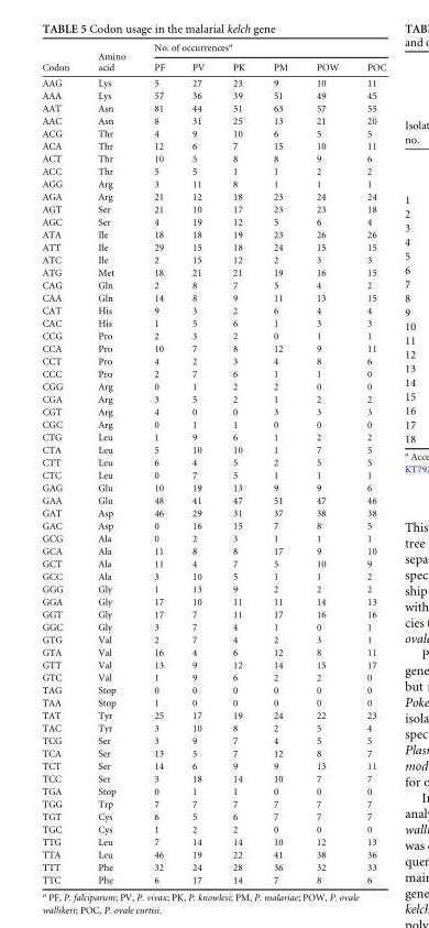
<table><thead><tr><td rowspan="2">Codon</td><td rowspan="2">Amino acid</td><td colspan="6">No. of occurrences<sup>a</sup></td></tr><tr><td>PF</td><td>PV</td><td>PK</td><td>PM</td><td>POW</td><td>POC</td></tr></thead><tbody><tr><td>AAG</td><td>Lys</td><td>5</td><td>27</td><td>23</td><td>9</td><td>10</td><td>11</td></tr><tr><td>AAA</td><td>Lys</td><td>57</td><td>36</td><td>39</td><td>51</td><td>49</td><td>45</td></tr><tr><td>AAT</td><td>Asn</td><td>81</td><td>44</td><td>51</td><td>63</td><td>57</td><td>55</td></tr><tr><td>AAC</td><td>Asn</td><td>8</td><td>31</td><td>25</td><td>13</td><td>21</td><td>20</td></tr><tr><td>ACG</td><td>Thr</td><td>4</td><td>9</td><td>10</td><td>6</td><td>5</td><td>5</td></tr><tr><td>ACA</td><td>Thr</td><td>12</td><td>6</td><td>7</td><td>15</td><td>10</td><td>11</td></tr><tr><td>ACT</td><td>Thr</td><td>10</td><td>5</td><td>8</td><td>8</td><td>9</td><td>6</td></tr><tr><td>ACC</td><td>Thr</td><td>5</td><td>5</td><td>1</td><td>1</td><td>2</td><td>2</td></tr><tr><td>AGG</td><td>Arg</td><td>3</td><td>11</td><td>8</td><td>1</td><td>1</td><td>1</td></tr><tr><td>AGA</td><td>Arg</td><td>21</td><td>12</td><td>18</td><td>23</td><td>24</td><td>24</td></tr><tr><td>AGT</td><td>Ser</td><td>21</td><td>10</td><td>17</td><td>23</td><td>23</td><td>18</td></tr><tr><td>AGC</td><td>Ser</td><td>4</td><td>19</td><td>12</td><td>5</td><td>6</td><td>4</td></tr><tr><td>ATA</td><td>Ile</td><td>18</td><td>18</td><td>19</td><td>23</td><td>26</td><td>26</td></tr><tr><td>ATT</td><td>Ile</td><td>29</td><td>15</td><td>18</td><td>24</td><td>15</td><td>15</td></tr><tr><td>ATC</td><td>Ile</td><td>2</td><td>15</td><td>12</td><td>2</td><td>3</td><td>3</td></tr><tr><td>ATG</td><td>Met</td><td>18</td><td>21</td><td>21</td><td>19</td><td>16</td><td>15</td></tr><tr><td>CAG</td><td>Gln</td><td>2</td><td>8</td><td>7</td><td>5</td><td>4</td><td>2</td></tr><tr><td>CAA</td><td>Gln</td><td>14</td><td>8</td><td>9</td><td>11</td><td>13</td><td>15</td></tr><tr><td>CAT</td><td>His</td><td>9</td><td>3</td><td>2</td><td>6</td><td>4</td><td>4</td></tr><tr><td>CAC</td><td>His</td><td>1</td><td>5</td><td>6</td><td>1</td><td>3</td><td>3</td></tr><tr><td>CCG</td><td>Pro</td><td>2</td><td>3</td><td>2</td><td>0</td><td>1</td><td>1</td></tr><tr><td>CCA</td><td>Pro</td><td>10</td><td>7</td><td>8</td><td>12</td><td>9</td><td>11</td></tr><tr><td>CCT</td><td>Pro</td><td>4</td><td>2</td><td>3</td><td>4</td><td>8</td><td>6</td></tr><tr><td>CCC</td><td>Pro</td><td>2</td><td>7</td><td>6</td><td>1</td><td>1</td><td>0</td></tr><tr><td>CGG</td><td>Arg</td><td>0</td><td>1</td><td>2</td><td>2</td><td>0</td><td>0</td></tr><tr><td>CGA</td><td>Arg</td><td>3</td><td>5</td><td>2</td><td>1</td><td>2</td><td>2</td></tr><tr><td>CGT</td><td>Arg</td><td>4</td><td>0</td><td>0</td><td>3</td><td>3</td><td>3</td></tr><tr><td>CGC</td><td>Arg</td><td>0</td><td>1</td><td>1</td><td>0</td><td>0</td><td>0</td></tr><tr><td>CTG</td><td>Leu</td><td>1</td><td>9</td><td>6</td><td>1</td><td>2</td><td>2</td></tr><tr><td>CTA</td><td>Leu</td><td>5</td><td>10</td><td>10</td><td>1</td><td>7</td><td>5</td></tr><tr><td>CTT</td><td>Leu</td><td>6</td><td>4</td><td>5</td><td>2</td><td>5</td><td>5</td></tr><tr><td>CTC</td><td>Leu</td><td>0</td><td>7</td><td>5</td><td>1</td><td>1</td><td>1</td></tr><tr><td>GAG</td><td>Glu</td><td>10</td><td>19</td><td>13</td><td>9</td><td>9</td><td>6</td></tr><tr><td>GAA</td><td>Glu</td><td>48</td><td>41</td><td>47</td><td>51</td><td>47</td><td>46</td></tr><tr><td>GAT</td><td>Asp</td><td>46</td><td>29</td><td>31</td><td>37</td><td>38</td><td>38</td></tr><tr><td>GAC</td><td>Asp</td><td>0</td><td>16</td><td>15</td><td>7</td><td>8</td><td>5</td></tr><tr><td>GCG</td><td>Ala</td><td>0</td><td>2</td><td>3</td><td>1</td><td>1</td><td>1</td></tr><tr><td>GCA</td><td>Ala</td><td>11</td><td>8</td><td>8</td><td>17</td><td>9</td><td>10</td></tr><tr><td>GCT</td><td>Ala</td><td>11</td><td>4</td><td>7</td><td>5</td><td>10</td><td>9</td></tr><tr><td>GCC</td><td>Ala</td><td>3</td><td>10</td><td>5</td><td>1</td><td>1</td><td>2</td></tr><tr><td>GGG</td><td>Gly</td><td>1</td><td>13</td><td>9</td><td>2</td><td>2</td><td>2</td></tr><tr><td>GGA</td><td>Gly</td><td>17</td><td>10</td><td>11</td><td>11</td><td>14</td><td>13</td></tr><tr><td>GGT</td><td>Gly</td><td>17</td><td>7</td><td>11</td><td>17</td><td>16</td><td>16</td></tr><tr><td>GGC</td><td>Gly</td><td>3</td><td>7</td><td>4</td><td>1</td><td>0</td><td>1</td></tr><tr><td>GTG</td><td>Val</td><td>2</td><td>7</td><td>4</td><td>2</td><td>3</td><td>1</td></tr><tr><td>GTA</td><td>Val</td><td>16</td><td>4</td><td>6</td><td>12</td><td>8</td><td>11</td></tr><tr><td>GTT</td><td>Val</td><td>13</td><td>9</td><td>12</td><td>14</td><td>15</td><td>17</td></tr><tr><td>GTC</td><td>Val</td><td>1</td><td>9</td><td>6</td><td>2</td><td>2</td><td>0</td></tr><tr><td>TAG</td><td>Stop</td><td>0</td><td>0</td><td>0</td><td>0</td><td>0</td><td>0</td></tr><tr><td>TAA</td><td>Stop</td><td>1</td><td>0</td><td>0</td><td>0</td><td>0</td><td>0</td></tr><tr><td>TAT</td><td>Tyr</td><td>25</td><td>17</td><td>19</td><td>24</td><td>22</td><td>23</td></tr><tr><td>TAC</td><td>Tyr</td><td>3</td><td>10</td><td>8</td><td>2</td><td>5</td><td>4</td></tr><tr><td>TCG</td><td>Ser</td><td>3</td><td>9</td><td>7</td><td>4</td><td>5</td><td>5</td></tr><tr><td>TCA</td><td>Ser</td><td>13</td><td>5</td><td>7</td><td>12</td><td>8</td><td>7</td></tr><tr><td>TCT</td><td>Ser</td><td>14</td><td>6</td><td>9</td><td>9</td><td>13</td><td>11</td></tr><tr><td>TCC</td><td>Ser</td><td>3</td><td>18</td><td>14</td><td>10</td><td>7</td><td>7</td></tr><tr><td>TGA</td><td>Stop</td><td>0</td><td>1</td><td>1</td><td>0</td><td>0</td><td>0</td></tr><tr><td>TGG</td><td>Trp</td><td>7</td><td>7</td><td>7</td><td>7</td><td>7</td><td>7</td></tr><tr><td>TGT</td><td>Cys</td><td>6</td><td>5</td><td>6</td><td>7</td><td>7</td><td>7</td></tr><tr><td>TGC</td><td>Cys</td><td>1</td><td>2</td><td>2</td><td>0</td><td>0</td><td>0</td></tr><tr><td>TTG</td><td>Leu</td><td>7</td><td>14</td><td>14</td><td>10</td><td>12</td><td>13</td></tr><tr><td>TTA</td><td>Leu</td><td>46</td><td>19</td><td>22</td><td>41</td><td>38</td><td>36</td></tr><tr><td>TTT</td><td>Phe</td><td>32</td><td>24</td><td>28</td><td>36</td><td>32</td><td>33</td></tr><tr><td>TTC</td><td>Phe</td><td>6</td><td>17</td><td>14</td><td>7</td><td>8</td><td>6</td></tr></tbody></table>